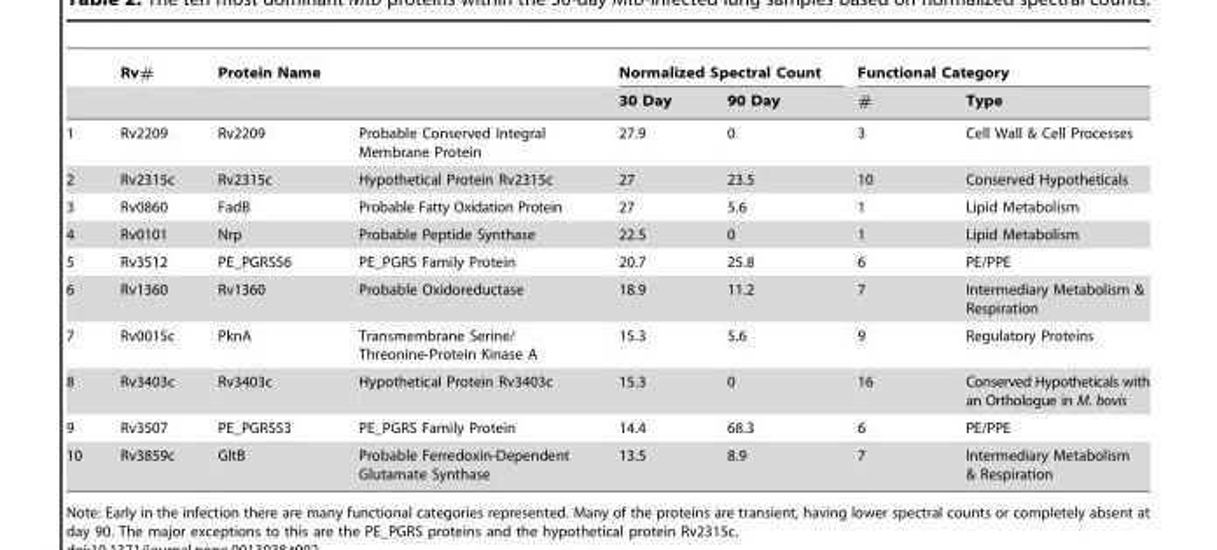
<table><thead><tr><td rowspan="2"></td><td rowspan="2">Rv#</td><td colspan="2">Protein Name</td><td colspan="2">Normalized Spectral Count</td><td colspan="2">Functional Category</td></tr><tr><td></td><td></td><td>30 Day</td><td>90 Day</td><td>#</td><td>Type</td></tr></thead><tbody><tr><td>1</td><td>Rv2209</td><td>Rv2209</td><td>Probable Conserved Integral Membrane Protein</td><td>27.9</td><td>0</td><td>3</td><td>Cell Wall &amp; Cell Processes</td></tr><tr><td>2</td><td>Rv2315c</td><td>Rv2315c</td><td>Hypothetical Protein Rv2315c</td><td>27</td><td>23.5</td><td>10</td><td>Conserved Hypotheticals</td></tr><tr><td>3</td><td>Rv0860</td><td>FadB</td><td>Probable Fatty Oxidation Protein</td><td>27</td><td>5.6</td><td>1</td><td>Lipid Metabolism</td></tr><tr><td>4</td><td>Rv0101</td><td>Nrp</td><td>Probable Peptide Synthase</td><td>22.5</td><td>0</td><td>1</td><td>Lipid Metabolism</td></tr><tr><td>5</td><td>Rv3512</td><td>PE_PGRS56</td><td>PE_PGRS Family Protein</td><td>20.7</td><td>25.8</td><td>6</td><td>PE/PPE</td></tr><tr><td>6</td><td>Rv1360</td><td>Rv1360</td><td>Probable Oxidoreductase</td><td>18.9</td><td>11.2</td><td>7</td><td>Intermediary Metabolism &amp; Respiration</td></tr><tr><td>7</td><td>Rv0015c</td><td>PknA</td><td>Transmembrane Serine/ Threonine-Protein Kinase A</td><td>15.3</td><td>5.6</td><td>9</td><td>Regulatory Proteins</td></tr><tr><td>8</td><td>Rv3403c</td><td>Rv3403c</td><td>Hypothetical Protein Rv3403c</td><td>15.3</td><td>0</td><td>16</td><td>Conserved Hypotheticals with an Orthologue in M. bovis</td></tr><tr><td>9</td><td>Rv3507</td><td>PE_PGRS53</td><td>PE_PGRS Family Protein</td><td>14.4</td><td>68.3</td><td>6</td><td>PE/PPE</td></tr><tr><td>10</td><td>Rv3859c</td><td>GltB</td><td>Probable Ferredoxin-Dependent Glutamate Synthase</td><td>13.5</td><td>8.9</td><td>7</td><td>Intermediary Metabolism &amp; Respiration</td></tr></tbody></table>